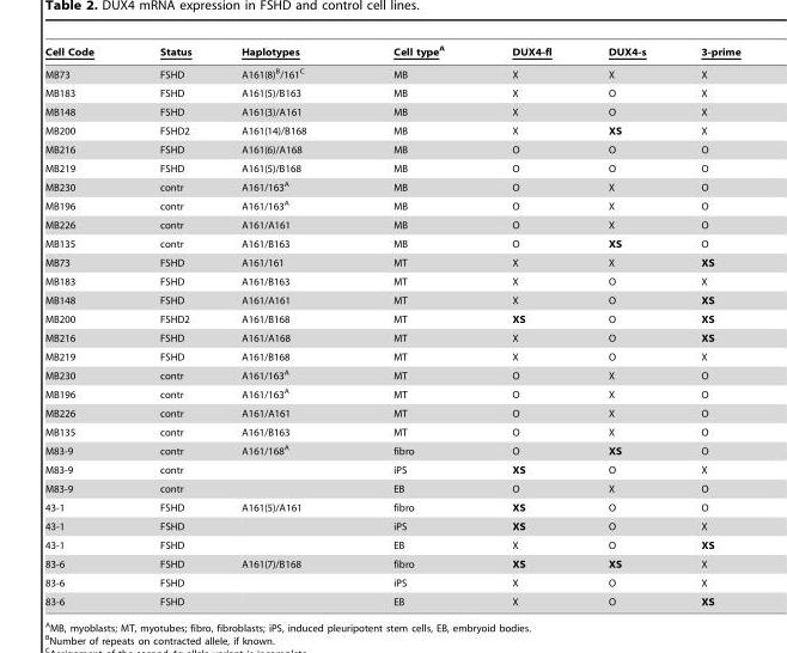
<table><thead><tr><td>Cell Code</td><td>Status</td><td>Haplotypes</td><td>Cell typeA</td><td>DUX4-fl</td><td>DUX4-s</td><td>3-prime</td></tr></thead><tbody><tr><td>MB73</td><td>FSHD</td><td>A161(8)<sup>B</sup>/161<sup>C</sup></td><td>MB</td><td>X</td><td>X</td><td>X</td></tr><tr><td>MB183</td><td>FSHD</td><td>A161(5)/B163</td><td>MB</td><td>X</td><td>O</td><td>X</td></tr><tr><td>MB148</td><td>FSHD</td><td>A161(3)/A161</td><td>MB</td><td>X</td><td>O</td><td>X</td></tr><tr><td>MB200</td><td>FSHD2</td><td>A161(14)/B168</td><td>MB</td><td>X</td><td>XS</td><td>X</td></tr><tr><td>MB216</td><td>FSHD</td><td>A161(6)/A168</td><td>MB</td><td>O</td><td>O</td><td>O</td></tr><tr><td>MB219</td><td>FSHD</td><td>A161(5)/B168</td><td>MB</td><td>O</td><td>O</td><td>O</td></tr><tr><td>MB230</td><td>contr</td><td>A161/163<sup>A</sup></td><td>MB</td><td>O</td><td>X</td><td>O</td></tr><tr><td>MB196</td><td>contr</td><td>A161/163<sup>A</sup></td><td>MB</td><td>O</td><td>X</td><td>O</td></tr><tr><td>MB226</td><td>contr</td><td>A161/A161</td><td>MB</td><td>O</td><td>X</td><td>O</td></tr><tr><td>MB135</td><td>contr</td><td>A161/B163</td><td>MB</td><td>O</td><td>XS</td><td>O</td></tr><tr><td>MB73</td><td>FSHD</td><td>A161/161</td><td>MT</td><td>X</td><td>X</td><td>XS</td></tr><tr><td>MB183</td><td>FSHD</td><td>A161/B163</td><td>MT</td><td>X</td><td>O</td><td>X</td></tr><tr><td>MB148</td><td>FSHD</td><td>A161/A161</td><td>MT</td><td>X</td><td>O</td><td>XS</td></tr><tr><td>MB200</td><td>FSHD2</td><td>A161/B168</td><td>MT</td><td>XS</td><td>O</td><td>XS</td></tr><tr><td>MB216</td><td>FSHD</td><td>A161/A168</td><td>MT</td><td>X</td><td>O</td><td>XS</td></tr><tr><td>MB219</td><td>FSHD</td><td>A161/B168</td><td>MT</td><td>X</td><td>O</td><td>X</td></tr><tr><td>MB230</td><td>contr</td><td>A161/163<sup>A</sup></td><td>MT</td><td>O</td><td>X</td><td>O</td></tr><tr><td>MB196</td><td>contr</td><td>A161/163<sup>A</sup></td><td>MT</td><td>O</td><td>X</td><td>O</td></tr><tr><td>MB226</td><td>contr</td><td>A161/A161</td><td>MT</td><td>O</td><td>X</td><td>O</td></tr><tr><td>MB135</td><td>contr</td><td>A161/B163</td><td>MT</td><td>O</td><td>X</td><td>O</td></tr><tr><td>M83-9</td><td>contr</td><td>A161/168<sup>A</sup></td><td>fibro</td><td>O</td><td>XS</td><td>O</td></tr><tr><td>M83-9</td><td>contr</td><td></td><td>iPS</td><td>XS</td><td>O</td><td>X</td></tr><tr><td>M83-9</td><td>contr</td><td></td><td>EB</td><td>O</td><td>X</td><td>O</td></tr><tr><td>43-1</td><td>FSHD</td><td>A161(5)/A161</td><td>fibro</td><td>XS</td><td>O</td><td>O</td></tr><tr><td>43-1</td><td>FSHD</td><td></td><td>iPS</td><td>XS</td><td>O</td><td>X</td></tr><tr><td>43-1</td><td>FSHD</td><td></td><td>EB</td><td>X</td><td>O</td><td>XS</td></tr><tr><td>83-6</td><td>FSHD</td><td>A161(7)/B168</td><td>fibro</td><td>XS</td><td>XS</td><td>X</td></tr><tr><td>83-6</td><td>FSHD</td><td></td><td>iPS</td><td>X</td><td>O</td><td>X</td></tr><tr><td>83-6</td><td>FSHD</td><td></td><td>EB</td><td>X</td><td>O</td><td>XS</td></tr></tbody></table>